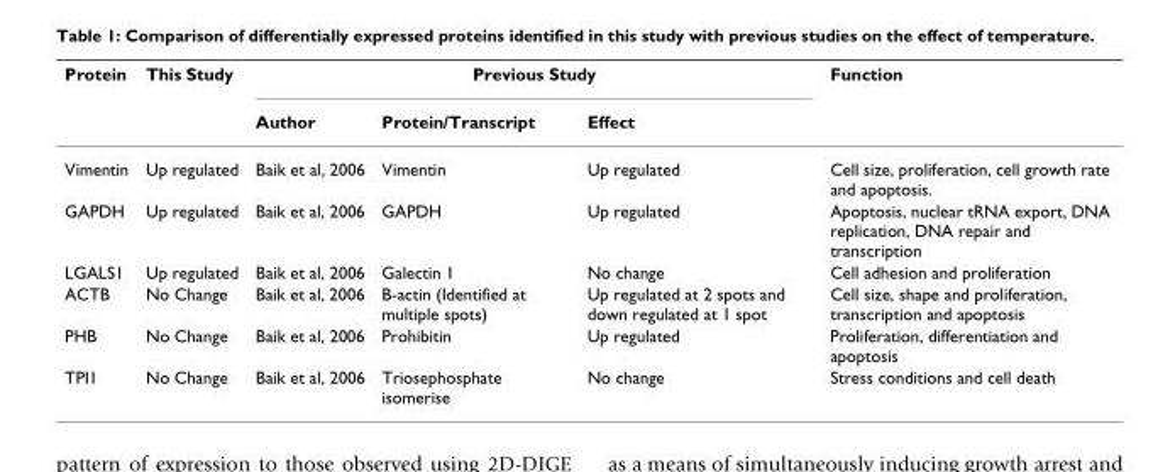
<table><thead><tr><td rowspan="2">Protein</td><td rowspan="2">This Study</td><td colspan="3">Previous Study</td><td rowspan="2">Function</td></tr><tr><td>Author</td><td>Protein/Transcript</td><td>Effect</td></tr></thead><tbody><tr><td>Vimentin</td><td>Up regulated</td><td>Baik et al, 2006</td><td>Vimentin</td><td>Up regulated</td><td>Cell size, proliferation, cell growth rate and apoptosis.</td></tr><tr><td>GAPDH</td><td>Up regulated</td><td>Baik et al, 2006</td><td>GAPDH</td><td>Up regulated</td><td>Apoptosis, nuclear tRNA export, DNA replication, DNA repair and transcription</td></tr><tr><td>LGALS1</td><td>Up regulated</td><td>Baik et al, 2006</td><td>Galectin 1</td><td>No change</td><td>Cell adhesion and proliferation</td></tr><tr><td>ACTB</td><td>No Change</td><td>Baik et al, 2006</td><td>B-actin (Identified at multiple spots)</td><td>Up regulated at 2 spots and down regulated at 1 spot</td><td>Cell size, shape and proliferation, transcription and apoptosis</td></tr><tr><td>PHB</td><td>No Change</td><td>Baik et al, 2006</td><td>Prohibitin</td><td>Up regulated</td><td>Proliferation, differentiation and apoptosis</td></tr><tr><td>TPI1</td><td>No Change</td><td>Baik et al, 2006</td><td>Triosephosphate isomerise</td><td>No change</td><td>Stress conditions and cell death</td></tr></tbody></table>